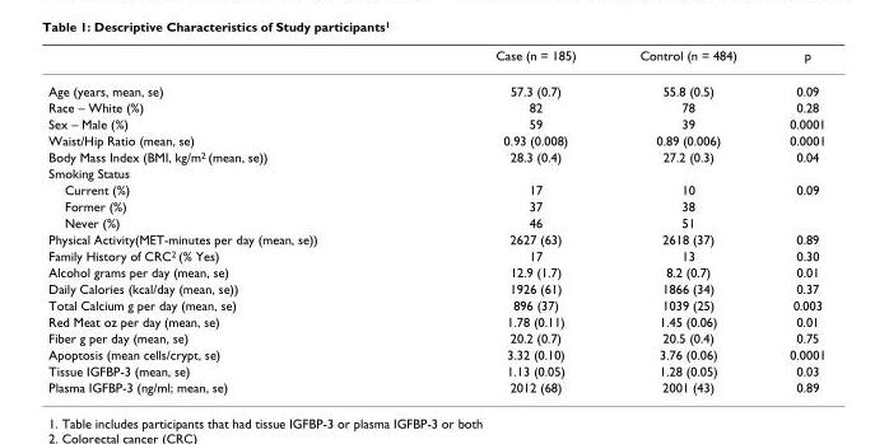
<table><thead><tr><td></td><td>Case (n = 185)</td><td>Control (n = 484)</td><td>p</td></tr></thead><tbody><tr><td>Age (years, mean, se)</td><td>57.3 (0.7)</td><td>55.8 (0.5)</td><td>0.09</td></tr><tr><td>Race – White (%)</td><td>82</td><td>78</td><td>0.28</td></tr><tr><td>Sex – Male (%)</td><td>59</td><td>39</td><td>0.0001</td></tr><tr><td>Waist/Hip Ratio (mean, se)</td><td>0.93 (0.008)</td><td>0.89 (0.006)</td><td>0.0001</td></tr><tr><td>Body Mass Index (BMI, kg/m<sup>2</sup> (mean, se))</td><td>28.3 (0.4)</td><td>27.2 (0.3)</td><td>0.04</td></tr><tr><td colspan="4">Smoking Status</td></tr><tr><td>Current (%)</td><td>17</td><td>10</td><td>0.09</td></tr><tr><td>Former (%)</td><td>37</td><td>38</td><td></td></tr><tr><td>Never (%)</td><td>46</td><td>51</td><td></td></tr><tr><td>Physical Activity(MET-minutes per day (mean, se))</td><td>2627 (63)</td><td>2618 (37)</td><td>0.89</td></tr><tr><td>Family History of CRC<sup>2</sup> (% Yes)</td><td>17</td><td>13</td><td>0.30</td></tr><tr><td>Alcohol grams per day (mean, se)</td><td>12.9 (1.7)</td><td>8.2 (0.7)</td><td>0.01</td></tr><tr><td>Daily Calories (kcal/day (mean, se))</td><td>1926 (61)</td><td>1866 (34)</td><td>0.37</td></tr><tr><td>Total Calcium g per day (mean, se)</td><td>896 (37)</td><td>1039 (25)</td><td>0.003</td></tr><tr><td>Red Meat oz per day (mean, se)</td><td>1.78 (0.11)</td><td>1.45 (0.06)</td><td>0.01</td></tr><tr><td>Fiber g per day (mean, se)</td><td>20.2 (0.7)</td><td>20.5 (0.4)</td><td>0.75</td></tr><tr><td>Apoptosis (mean cells/crypt, se)</td><td>3.32 (0.10)</td><td>3.76 (0.06)</td><td>0.0001</td></tr><tr><td>Tissue IGFBP-3 (mean, se)</td><td>1.13 (0.05)</td><td>1.28 (0.05)</td><td>0.03</td></tr><tr><td>Plasma IGFBP-3 (ng/ml; mean, se)</td><td>2012 (68)</td><td>2001 (43)</td><td>0.89</td></tr></tbody></table>